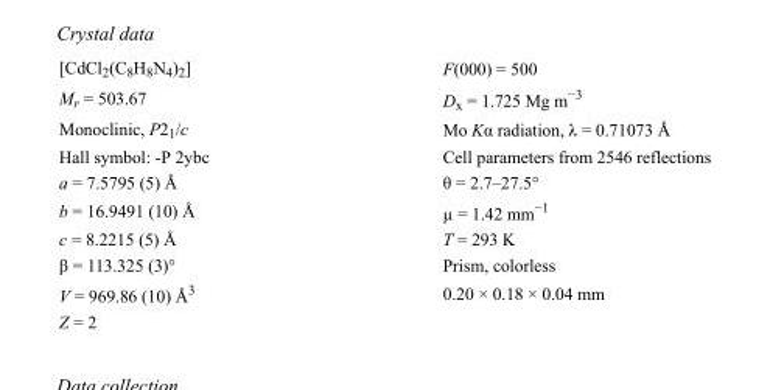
<table><tbody><tr><td>[CdCl<sub>2</sub>(C<sub>8</sub>H<sub>8</sub>N<sub>4</sub>)<sub>2</sub>]</td><td>F(000) = 500</td></tr><tr><td>M<sub>r</sub> = 503.67</td><td>D<sub>x</sub> = 1.725 Mg m<sup>−3</sup></td></tr><tr><td>Monoclinic, P2<sub>1</sub>/c</td><td>Mo Kα radiation, λ = 0.71073 Å</td></tr><tr><td>Hall symbol: -P 2ybc</td><td>Cell parameters from 2546 reflections</td></tr><tr><td>a = 7.5795 (5) Å</td><td>θ = 2.7–27.5°</td></tr><tr><td>b = 16.9491 (10) Å</td><td>µ = 1.42 mm<sup>−1</sup></td></tr><tr><td>c = 8.2215 (5) Å</td><td>T = 293 K</td></tr><tr><td>β = 113.325 (3)°</td><td>Prism, colorless</td></tr><tr><td>V = 969.86 (10) Å<sup>3</sup></td><td>0.20 × 0.18 × 0.04 mm</td></tr><tr><td>Z = 2</td><td></td></tr></tbody></table>